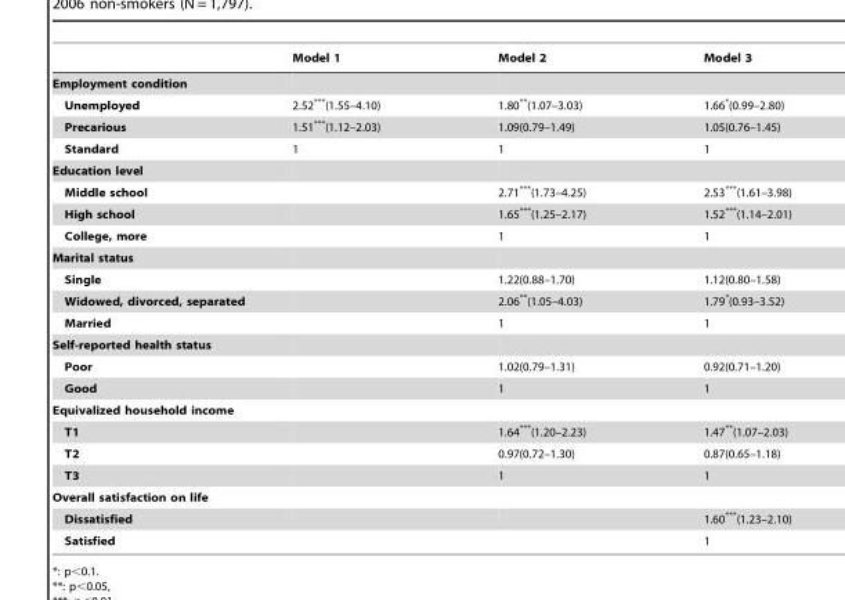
<table><thead><tr><td></td><td>Model 1</td><td>Model 2</td><td>Model 3</td></tr></thead><tbody><tr><td colspan="4">Employment condition</td></tr><tr><td>Unemployed</td><td>2.52***(1.55–4.10)</td><td>1.80**(1.07–3.03)</td><td>1.66*(0.99–2.80)</td></tr><tr><td>Precarious</td><td>1.51***(1.12–2.03)</td><td>1.09(0.79–1.49)</td><td>1.05(0.76–1.45)</td></tr><tr><td>Standard</td><td>1</td><td>1</td><td>1</td></tr><tr><td colspan="4">Education level</td></tr><tr><td>Middle school</td><td></td><td>2.71***(1.73–4.25)</td><td>2.53***(1.61–3.98)</td></tr><tr><td>High school</td><td></td><td>1.65***(1.25–2.17)</td><td>1.52***(1.14–2.01)</td></tr><tr><td>College, more</td><td></td><td>1</td><td>1</td></tr><tr><td colspan="4">Marital status</td></tr><tr><td>Single</td><td></td><td>1.22(0.88–1.70)</td><td>1.12(0.80–1.58)</td></tr><tr><td>Widowed, divorced, separated</td><td></td><td>2.06**(1.05–4.03)</td><td>1.79*(0.93–3.52)</td></tr><tr><td>Married</td><td></td><td>1</td><td>1</td></tr><tr><td colspan="4">Self-reported health status</td></tr><tr><td>Poor</td><td></td><td>1.02(0.79–1.31)</td><td>0.92(0.71–1.20)</td></tr><tr><td>Good</td><td></td><td>1</td><td>1</td></tr><tr><td colspan="4">Equivalized household income</td></tr><tr><td>T1</td><td></td><td>1.64***(1.20–2.23)</td><td>1.47**(1.07–2.03)</td></tr><tr><td>T2</td><td></td><td>0.97(0.72–1.30)</td><td>0.87(0.65–1.18)</td></tr><tr><td>T3</td><td></td><td>1</td><td>1</td></tr><tr><td colspan="4">Overall satisfaction on life</td></tr><tr><td>Dissatisfied</td><td></td><td></td><td>1.60***(1.23–2.10)</td></tr><tr><td>Satisfied</td><td></td><td></td><td>1</td></tr></tbody></table>